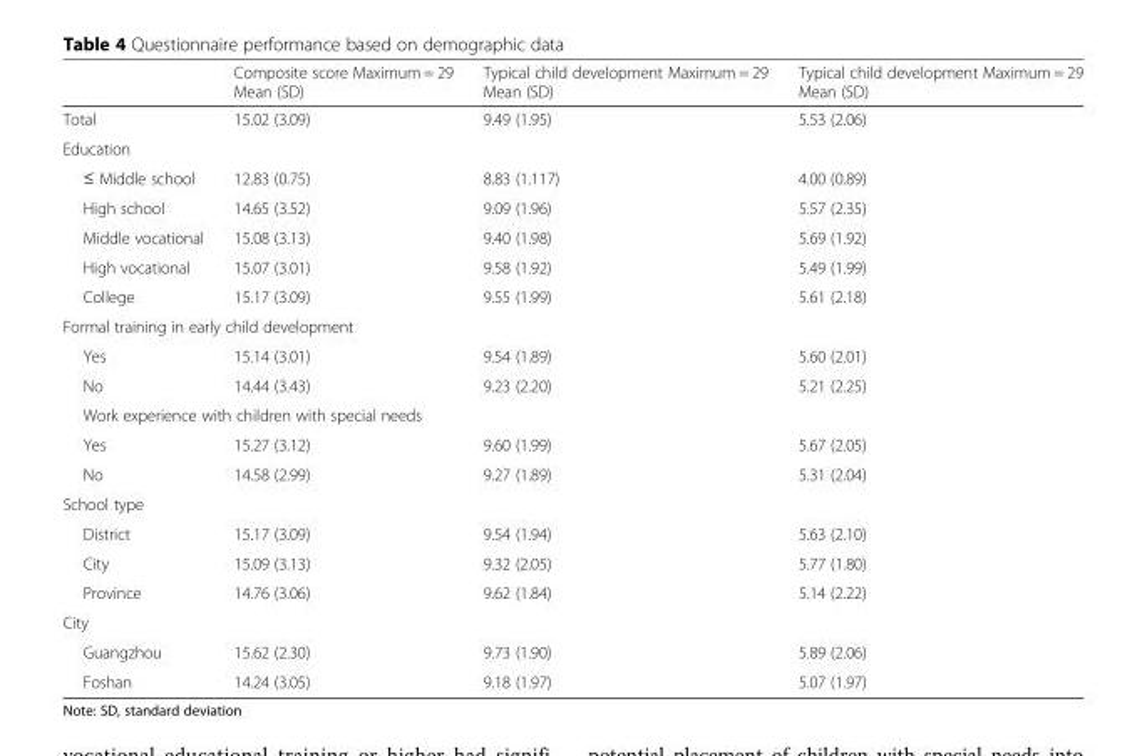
<table><thead><tr><td></td><td>Composite score Maximum = 29 Mean (SD)</td><td>Typical child development Maximum = 29 Mean (SD)</td><td>Typical child development Maximum = 29 Mean (SD)</td></tr></thead><tbody><tr><td>Total</td><td>15.02 (3.09)</td><td>9.49 (1.95)</td><td>5.53 (2.06)</td></tr><tr><td colspan="4">Education</td></tr><tr><td>≤ Middle school</td><td>12.83 (0.75)</td><td>8.83 (1.117)</td><td>4.00 (0.89)</td></tr><tr><td>High school</td><td>14.65 (3.52)</td><td>9.09 (1.96)</td><td>5.57 (2.35)</td></tr><tr><td>Middle vocational</td><td>15.08 (3.13)</td><td>9.40 (1.98)</td><td>5.69 (1.92)</td></tr><tr><td>High vocational</td><td>15.07 (3.01)</td><td>9.58 (1.92)</td><td>5.49 (1.99)</td></tr><tr><td>College</td><td>15.17 (3.09)</td><td>9.55 (1.99)</td><td>5.61 (2.18)</td></tr><tr><td colspan="4">Formal training in early child development</td></tr><tr><td>Yes</td><td>15.14 (3.01)</td><td>9.54 (1.89)</td><td>5.60 (2.01)</td></tr><tr><td>No</td><td>14.44 (3.43)</td><td>9.23 (2.20)</td><td>5.21 (2.25)</td></tr><tr><td colspan="4">Work experience with children with special needs</td></tr><tr><td>Yes</td><td>15.27 (3.12)</td><td>9.60 (1.99)</td><td>5.67 (2.05)</td></tr><tr><td>No</td><td>14.58 (2.99)</td><td>9.27 (1.89)</td><td>5.31 (2.04)</td></tr><tr><td colspan="4">School type</td></tr><tr><td>District</td><td>15.17 (3.09)</td><td>9.54 (1.94)</td><td>5.63 (2.10)</td></tr><tr><td>City</td><td>15.09 (3.13)</td><td>9.32 (2.05)</td><td>5.77 (1.80)</td></tr><tr><td>Province</td><td>14.76 (3.06)</td><td>9.62 (1.84)</td><td>5.14 (2.22)</td></tr><tr><td colspan="4">City</td></tr><tr><td>Guangzhou</td><td>15.62 (2.30)</td><td>9.73 (1.90)</td><td>5.89 (2.06)</td></tr><tr><td>Foshan</td><td>14.24 (3.05)</td><td>9.18 (1.97)</td><td>5.07 (1.97)</td></tr></tbody></table>